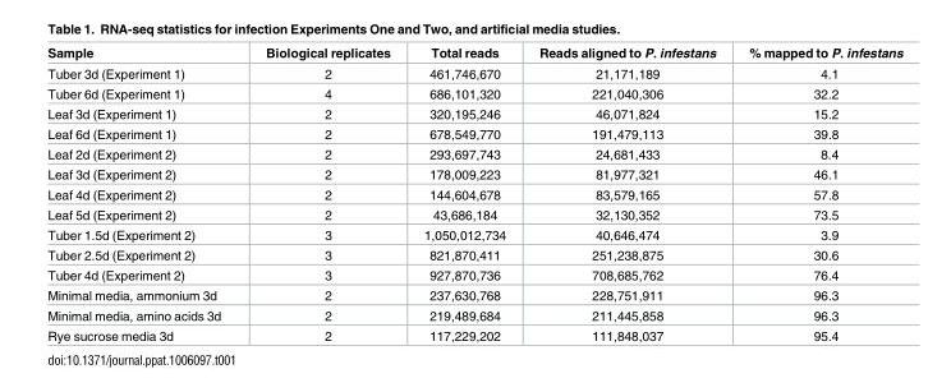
<table><thead><tr><td>Sample</td><td>Biological replicates</td><td>Total reads</td><td>Reads aligned to P. infestans</td><td>% mapped to P. infestans</td></tr></thead><tbody><tr><td>Tuber 3d (Experiment 1)</td><td>2</td><td>461,746,670</td><td>21,171,189</td><td>4.1</td></tr><tr><td>Tuber 6d (Experiment 1)</td><td>4</td><td>686,101,320</td><td>221,040,306</td><td>32.2</td></tr><tr><td>Leaf 3d (Experiment 1)</td><td>2</td><td>320,195,246</td><td>46,071,824</td><td>15.2</td></tr><tr><td>Leaf 6d (Experiment 1)</td><td>2</td><td>678,549,770</td><td>191,479,113</td><td>39.8</td></tr><tr><td>Leaf 2d (Experiment 2)</td><td>2</td><td>293,697,743</td><td>24,681,433</td><td>8.4</td></tr><tr><td>Leaf 3d (Experiment 2)</td><td>2</td><td>178,009,223</td><td>81,977,321</td><td>46.1</td></tr><tr><td>Leaf 4d (Experiment 2)</td><td>2</td><td>144,604,678</td><td>83,579,165</td><td>57.8</td></tr><tr><td>Leaf 5d (Experiment 2)</td><td>2</td><td>43,686,184</td><td>32,130,352</td><td>73.5</td></tr><tr><td>Tuber 1.5d (Experiment 2)</td><td>3</td><td>1,050,012,734</td><td>40,646,474</td><td>3.9</td></tr><tr><td>Tuber 2.5d (Experiment 2)</td><td>3</td><td>821,870,411</td><td>251,238,875</td><td>30.6</td></tr><tr><td>Tuber 4d (Experiment 2)</td><td>3</td><td>927,870,736</td><td>708,685,762</td><td>76.4</td></tr><tr><td>Minimal media, ammonium 3d</td><td>2</td><td>237,630,768</td><td>228,751,911</td><td>96.3</td></tr><tr><td>Minimal media, amino acids 3d</td><td>2</td><td>219,489,684</td><td>211,445,858</td><td>96.3</td></tr><tr><td>Rye sucrose media 3d</td><td>2</td><td>117,229,202</td><td>111,848,037</td><td>95.4</td></tr></tbody></table>